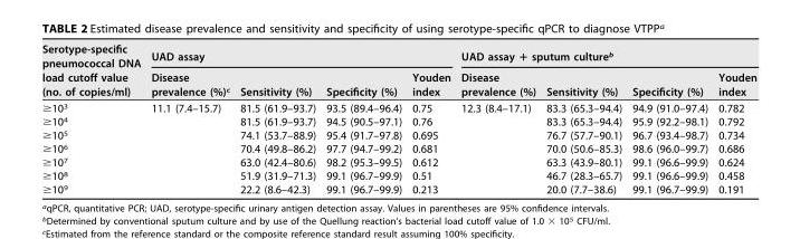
<table><thead><tr><td rowspan="2">Serotype-specific pneumococcal DNA load cutoff value (no. of copies/ml)</td><td colspan="4">UAD assay</td><td colspan="4">UAD assay + sputum culture<sup>b</sup></td></tr><tr><td>Disease prevalence (%)<sup>c</sup></td><td>Sensitivity (%)</td><td>Specificity (%)</td><td>Youden index</td><td>Disease prevalence (%)</td><td>Sensitivity (%)</td><td>Specificity (%)</td><td>Youden index</td></tr></thead><tbody><tr><td>≥10<sup>3</sup></td><td>11.1 (7.4–15.7)</td><td>81.5 (61.9–93.7)</td><td>93.5 (89.4–96.4)</td><td>0.75</td><td>12.3 (8.4–17.1)</td><td>83.3 (65.3–94.4)</td><td>94.9 (91.0–97.4)</td><td>0.782</td></tr><tr><td>≥10<sup>4</sup></td><td></td><td>81.5 (61.9–93.7)</td><td>94.5 (90.5–97.1)</td><td>0.76</td><td></td><td>83.3 (65.3–94.4)</td><td>95.9 (92.2–98.1)</td><td>0.792</td></tr><tr><td>≥10<sup>5</sup></td><td></td><td>74.1 (53.7–88.9)</td><td>95.4 (91.7–97.8)</td><td>0.695</td><td></td><td>76.7 (57.7–90.1)</td><td>96.7 (93.4–98.7)</td><td>0.734</td></tr><tr><td>≥10<sup>6</sup></td><td></td><td>70.4 (49.8–86.2)</td><td>97.7 (94.7–99.2)</td><td>0.681</td><td></td><td>70.0 (50.6–85.3)</td><td>98.6 (96.0–99.7)</td><td>0.686</td></tr><tr><td>≥10<sup>7</sup></td><td></td><td>63.0 (42.4–80.6)</td><td>98.2 (95.3–99.5)</td><td>0.612</td><td></td><td>63.3 (43.9–80.1)</td><td>99.1 (96.6–99.9)</td><td>0.624</td></tr><tr><td>≥10<sup>8</sup></td><td></td><td>51.9 (31.9–71.3)</td><td>99.1 (96.7–99.9)</td><td>0.51</td><td></td><td>46.7 (28.3–65.7)</td><td>99.1 (96.6–99.9)</td><td>0.458</td></tr><tr><td>≥10<sup>9</sup></td><td></td><td>22.2 (8.6–42.3)</td><td>99.1 (96.7–99.9)</td><td>0.213</td><td></td><td>20.0 (7.7–38.6)</td><td>99.1 (96.7–99.9)</td><td>0.191</td></tr></tbody></table>